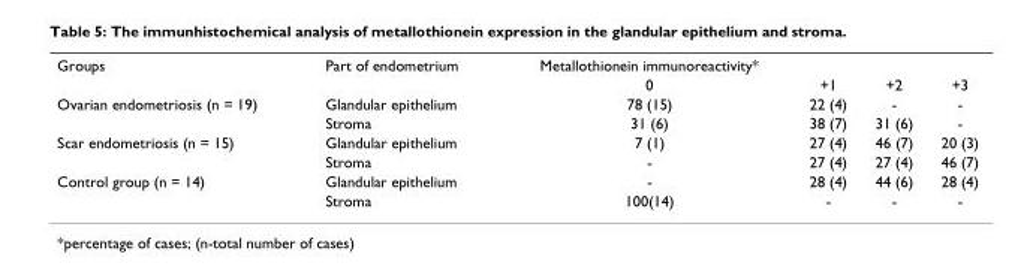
<table><tbody><tr><td rowspan="2">Groups</td><td>Part of endometrium</td><td>Metallothionein immunoreactivity*</td><td></td><td></td><td></td></tr><tr><td></td><td>0</td><td>+1</td><td>+2</td><td>+3</td></tr><tr><td rowspan="2">Ovarian endometriosis (n = 19)</td><td>Glandular epithelium</td><td>78 (15)</td><td>22 (4)</td><td>-</td><td>-</td></tr><tr><td>Stroma</td><td>31 (6)</td><td>38 (7)</td><td>31 (6)</td><td>-</td></tr><tr><td rowspan="2">Scar endometriosis (n = 15)</td><td>Glandular epithelium</td><td>7 (1)</td><td>27 (4)</td><td>46 (7)</td><td>20 (3)</td></tr><tr><td>Stroma</td><td>-</td><td>27 (4)</td><td>27 (4)</td><td>46 (7)</td></tr><tr><td rowspan="2">Control group (n = 14)</td><td>Glandular epithelium</td><td>-</td><td>28 (4)</td><td>44 (6)</td><td>28 (4)</td></tr><tr><td>Stroma</td><td>100(14)</td><td>-</td><td>-</td><td>-</td></tr></tbody></table>